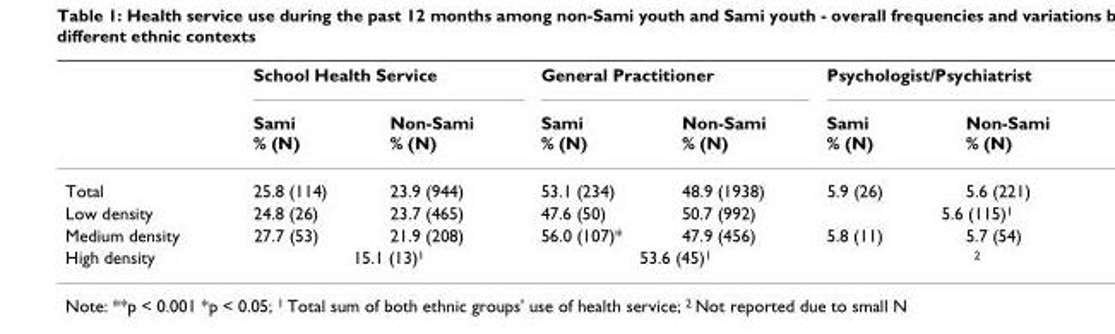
<table><thead><tr><td rowspan="2"></td><td colspan="2">School Health Service</td><td colspan="2">General Practitioner</td><td colspan="2">Psychologist/Psychiatrist</td></tr><tr><td>Sami % (N)</td><td>Non-Sami % (N)</td><td>Sami % (N)</td><td>Non-Sami % (N)</td><td>Sami % (N)</td><td>Non-Sami % (N)</td></tr></thead><tbody><tr><td>Total</td><td>25.8 (114)</td><td>23.9 (944)</td><td>53.1 (234)</td><td>48.9 (1938)</td><td>5.9 (26)</td><td>5.6 (221)</td></tr><tr><td>Low density</td><td>24.8 (26)</td><td>23.7 (465)</td><td>47.6 (50)</td><td>50.7 (992)</td><td colspan="2">5.6 (115)<sup>1</sup></td></tr><tr><td>Medium density</td><td>27.7 (53)</td><td>21.9 (208)</td><td>56.0 (107)*</td><td>47.9 (456)</td><td>5.8 (11)</td><td>5.7 (54)</td></tr><tr><td>High density</td><td colspan="2">15.1 (13)<sup>1</sup></td><td colspan="2">53.6 (45)<sup>1</sup></td><td colspan="2"><sup>2</sup></td></tr></tbody></table>